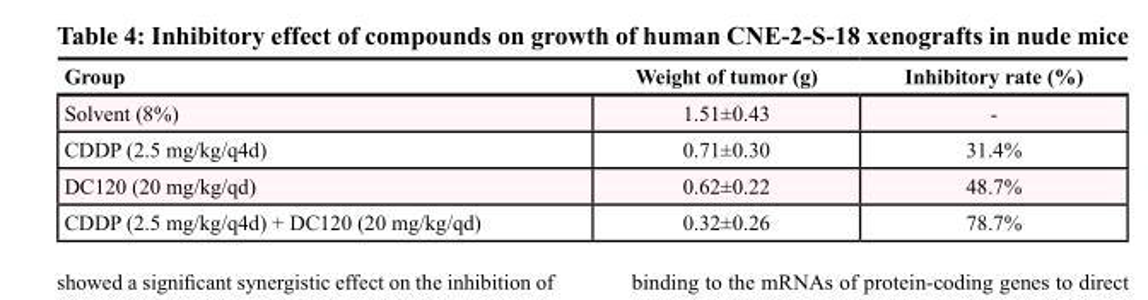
<table><thead><tr><td>Group</td><td>Weight of tumor (g)</td><td>Inhibitory rate (%)</td></tr></thead><tbody><tr><td>Solvent (8%)</td><td>1.51±0.43</td><td>-</td></tr><tr><td>CDDP (2.5 mg/kg/q4d)</td><td>0.71±0.30</td><td>31.4%</td></tr><tr><td>DC120 (20 mg/kg/qd)</td><td>0.62±0.22</td><td>48.7%</td></tr><tr><td>CDDP (2.5 mg/kg/q4d) + DC120 (20 mg/kg/qd)</td><td>0.32±0.26</td><td>78.7%</td></tr></tbody></table>